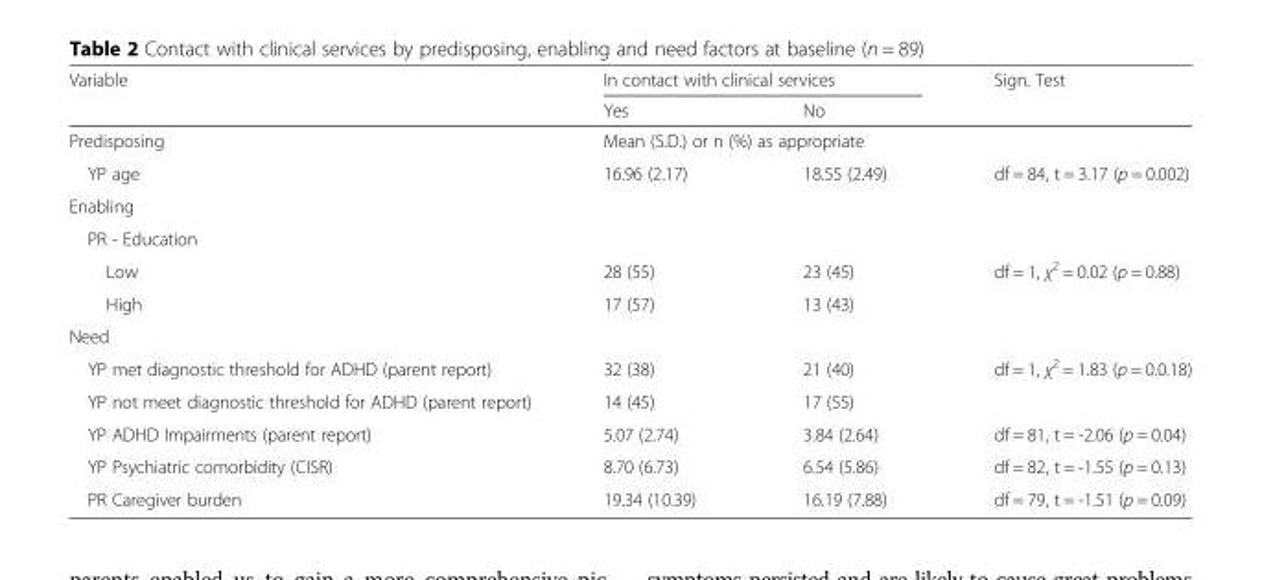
<table><thead><tr><td rowspan="2">Variable</td><td colspan="2">In contact with clinical services</td><td rowspan="2">Sign. Test</td></tr><tr><td>Yes</td><td>No</td></tr></thead><tbody><tr><td>Predisposing</td><td colspan="2">Mean (S.D.) or n (%) as appropriate</td><td></td></tr><tr><td>YP age</td><td>16.96 (2.17)</td><td>18.55 (2.49)</td><td>df = 84, t = 3.17 (p = 0.002)</td></tr><tr><td colspan="4">Enabling</td></tr><tr><td colspan="4">PR - Education</td></tr><tr><td>Low</td><td>28 (55)</td><td>23 (45)</td><td>df = 1, χ<sup>2</sup> = 0.02 (p = 0.88)</td></tr><tr><td>High</td><td>17 (57)</td><td>13 (43)</td><td></td></tr><tr><td colspan="4">Need</td></tr><tr><td>YP met diagnostic threshold for ADHD (parent report)</td><td>32 (38)</td><td>21 (40)</td><td>df = 1, χ<sup>2</sup> = 1.83 (p = 0.0.18)</td></tr><tr><td>YP not meet diagnostic threshold for ADHD (parent report)</td><td>14 (45)</td><td>17 (55)</td><td></td></tr><tr><td>YP ADHD Impairments (parent report)</td><td>5.07 (2.74)</td><td>3.84 (2.64)</td><td>df = 81, t = -2.06 (p = 0.04)</td></tr><tr><td>YP Psychiatric comorbidity (CISR)</td><td>8.70 (6.73)</td><td>6.54 (5.86)</td><td>df = 82, t = -1.55 (p = 0.13)</td></tr><tr><td>PR Caregiver burden</td><td>19.34 (10.39)</td><td>16.19 (7.88)</td><td>df = 79, t = -1.51 (p = 0.09)</td></tr></tbody></table>